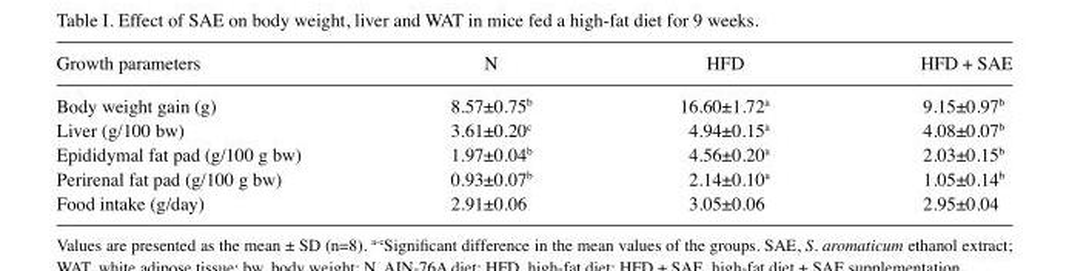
<table><thead><tr><td>Growth parameters</td><td>N</td><td>HFD</td><td>HFD + SAE</td></tr></thead><tbody><tr><td>Body weight gain (g)</td><td>8.57±0.75<sup>b</sup></td><td>16.60±1.72<sup>a</sup></td><td>9.15±0.97<sup>b</sup></td></tr><tr><td>Liver (g/100 bw)</td><td>3.61±0.20<sup>c</sup></td><td>4.94±0.15<sup>a</sup></td><td>4.08±0.07<sup>b</sup></td></tr><tr><td>Epididymal fat pad (g/100 g bw)</td><td>1.97±0.04<sup>b</sup></td><td>4.56±0.20<sup>a</sup></td><td>2.03±0.15<sup>b</sup></td></tr><tr><td>Perirenal fat pad (g/100 g bw)</td><td>0.93±0.07<sup>b</sup></td><td>2.14±0.10<sup>a</sup></td><td>1.05±0.14<sup>b</sup></td></tr><tr><td>Food intake (g/day)</td><td>2.91±0.06</td><td>3.05±0.06</td><td>2.95±0.04</td></tr></tbody></table>